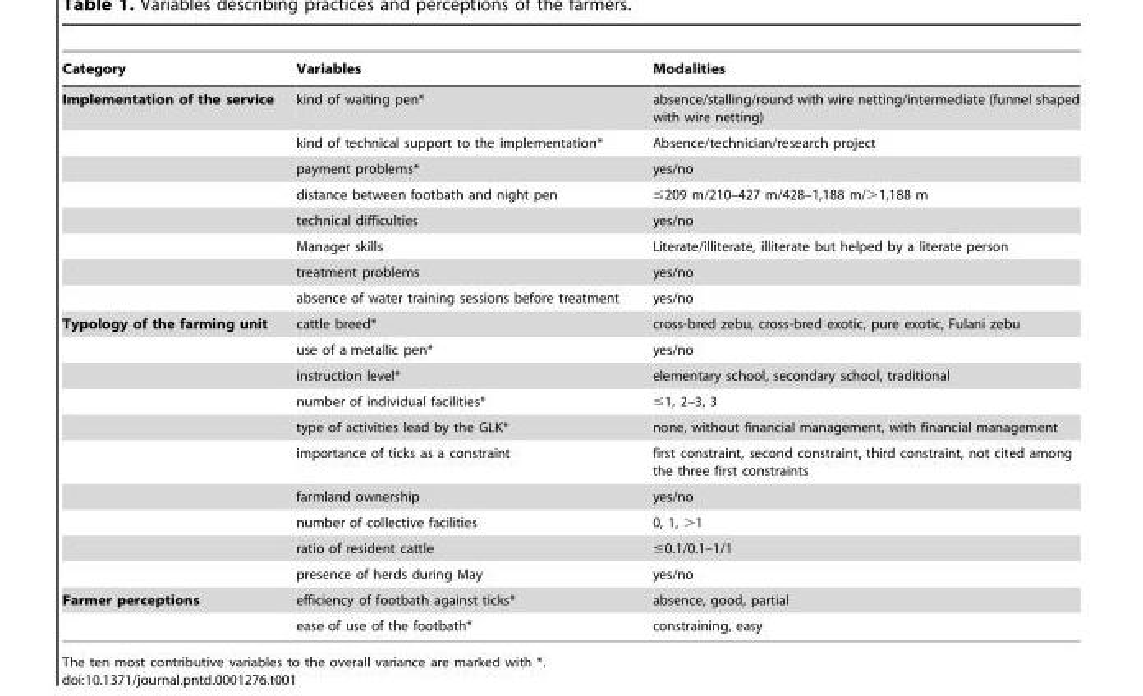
<table><thead><tr><td>Category</td><td>Variables</td><td>Modalities</td></tr></thead><tbody><tr><td rowspan="8">Implementation of the service</td><td>kind of waiting pen*</td><td>absence/stalling/round with wire netting/intermediate (funnel shaped with wire netting)</td></tr><tr><td>kind of technical support to the implementation*</td><td>Absence/technician/research project</td></tr><tr><td>payment problems*</td><td>yes/no</td></tr><tr><td>distance between footbath and night pen</td><td>≤209 m/210–427 m/428–1,188 m/&gt;1,188 m</td></tr><tr><td>technical difficulties</td><td>yes/no</td></tr><tr><td>Manager skills</td><td>Literate/illiterate, illiterate but helped by a literate person</td></tr><tr><td>treatment problems</td><td>yes/no</td></tr><tr><td>absence of water training sessions before treatment</td><td>yes/no</td></tr><tr><td rowspan="10">Typology of the farming unit</td><td>cattle breed*</td><td>cross-bred zebu, cross-bred exotic, pure exotic, Fulani zebu</td></tr><tr><td>use of a metallic pen*</td><td>yes/no</td></tr><tr><td>instruction level*</td><td>elementary school, secondary school, traditional</td></tr><tr><td>number of individual facilities*</td><td>≤1, 2–3, 3</td></tr><tr><td>type of activities lead by the GLK*</td><td>none, without financial management, with financial management</td></tr><tr><td>importance of ticks as a constraint</td><td>first constraint, second constraint, third constraint, not cited among the three first constraints</td></tr><tr><td>farmland ownership</td><td>yes/no</td></tr><tr><td>number of collective facilities</td><td>0, 1, &gt;1</td></tr><tr><td>ratio of resident cattle</td><td>≤0.1/0.1–1/1</td></tr><tr><td>presence of herds during May</td><td>yes/no</td></tr><tr><td rowspan="2">Farmer perceptions</td><td>efficiency of footbath against ticks*</td><td>absence, good, partial</td></tr><tr><td>ease of use of the footbath*</td><td>constraining, easy</td></tr></tbody></table>